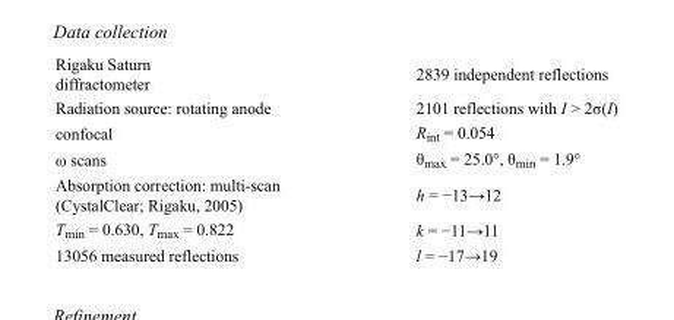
<table><tbody><tr><td>Rigaku Saturn diffractometer</td><td>2839 independent reflections</td></tr><tr><td>Radiation source: rotating anode</td><td>2101 reflections with I &gt; 2σ(I)</td></tr><tr><td>confocal</td><td>R<sub>int</sub> = 0.054</td></tr><tr><td>ω scans</td><td>θ<sub>max</sub> = 25.0°, θ<sub>min</sub> = 1.9°</td></tr><tr><td>Absorption correction: multi-scan (CystalClear; Rigaku, 2005)</td><td>h = −13→12</td></tr><tr><td>T<sub>min</sub> = 0.630, T<sub>max</sub> = 0.822</td><td>k = −11→11</td></tr><tr><td>13056 measured reflections</td><td>l = −17→19</td></tr></tbody></table>